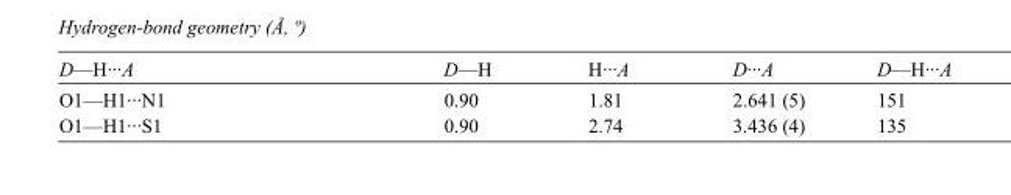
<table><tbody><tr><td>D—H···A</td><td>D—H</td><td>H···A</td><td>D···A</td><td>D—H···A</td></tr><tr><td>O1—H1···N1</td><td>0.90</td><td>1.81</td><td>2.641 (5)</td><td>151</td></tr><tr><td>O1—H1···S1</td><td>0.90</td><td>2.74</td><td>3.436 (4)</td><td>135</td></tr></tbody></table>